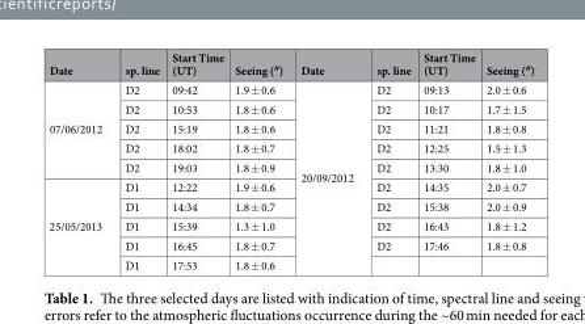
<table><thead><tr><td>Date</td><td>sp. line</td><td>Start Time (UT)</td><td>Seeing (″)</td><td>Date</td><td>sp. line</td><td>Start Time (UT)</td><td>Seeing (″)</td></tr></thead><tbody><tr><td rowspan="5">07/06/2012</td><td>D2</td><td>09:42</td><td>1.9 ± 0.6</td><td rowspan="10">20/09/2012</td><td>D2</td><td>09:13</td><td>2.0 ± 0.6</td></tr><tr><td>D2</td><td>10:53</td><td>1.8 ± 0.6</td><td>D2</td><td>10:17</td><td>1.7 ± 1.5</td></tr><tr><td>D2</td><td>15:19</td><td>1.8 ± 0.6</td><td>D2</td><td>11:21</td><td>1.8 ± 0.8</td></tr><tr><td>D2</td><td>18:02</td><td>1.8 ± 0.7</td><td>D2</td><td>12:25</td><td>1.5 ± 1.3</td></tr><tr><td>D2</td><td>19:03</td><td>1.8 ± 0.9</td><td>D2</td><td>13:30</td><td>1.8 ± 1.0</td></tr><tr><td rowspan="5">25/05/2013</td><td>D1</td><td>12:22</td><td>1.9 ± 0.6</td><td>D2</td><td>14:35</td><td>2.0 ± 0.7</td></tr><tr><td>D1</td><td>14:34</td><td>1.8 ± 0.7</td><td>D2</td><td>15:38</td><td>2.0 ± 0.9</td></tr><tr><td>D1</td><td>15:39</td><td>1.3 ± 1.0</td><td>D2</td><td>16:43</td><td>1.8 ± 1.2</td></tr><tr><td>D1</td><td>16:45</td><td>1.8 ± 0.7</td><td>D2</td><td>17:46</td><td>1.8 ± 0.8</td></tr><tr><td>D1</td><td>17:53</td><td>1.8 ± 0.6</td><td></td><td></td><td></td></tr></tbody></table>